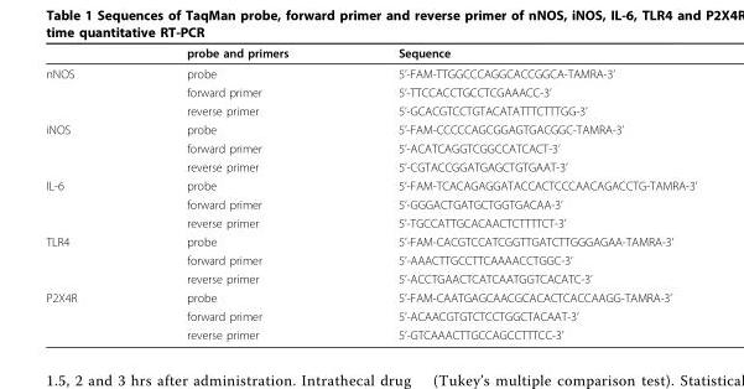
<table><thead><tr><td></td><td>probe and primers</td><td>Sequence</td></tr></thead><tbody><tr><td rowspan="3">nNOS</td><td>probe</td><td>5’-FAM-TTGGCCCAGGCACCGGCA-TAMRA-3’</td></tr><tr><td>forward primer</td><td>5’-TTCCACCTGCCTCGAAACC-3’</td></tr><tr><td>reverse primer</td><td>5’-GCACGTCCTGTACATATTTCTTTGG-3’</td></tr><tr><td rowspan="3">iNOS</td><td>probe</td><td>5’-FAM-CCCCCAGCGGAGTGACGGC-TAMRA-3’</td></tr><tr><td>forward primer</td><td>5’-ACATCAGGTCGGCCATCACT-3’</td></tr><tr><td>reverse primer</td><td>5’-CGTACCGGATGAGCTGTGAAT-3’</td></tr><tr><td rowspan="3">IL-6</td><td>probe</td><td>5’-FAM-TCACAGAGGATACCACTCCCAACAGACCTG-TAMRA-3’</td></tr><tr><td>forward primer</td><td>5’-GGGACTGATGCTGGTGACAA-3’</td></tr><tr><td>reverse primer</td><td>5’-TGCCATTGCACAACTCTTTTCT-3’</td></tr><tr><td rowspan="3">TLR4</td><td>probe</td><td>5’-FAM-CACGTCCATCGGTTGATCTTGGGAGAA-TAMRA-3’</td></tr><tr><td>forward primer</td><td>5’-AAACTTGCCTTCAAAACCTGGC-3’</td></tr><tr><td>reverse primer</td><td>5’-ACCTGAACTCATCAATGGTCACATC-3’</td></tr><tr><td rowspan="3">P2X4R</td><td>probe</td><td>5’-FAM-CAATGAGCAACGCACACTCACCAAGG-TAMRA-3’</td></tr><tr><td>forward primer</td><td>5’-ACAACGTGTCTCCTGGCTACAAT-3’</td></tr><tr><td>reverse primer</td><td>5’-GTCAAACTTGCCAGCCTTTCC-3’</td></tr></tbody></table>